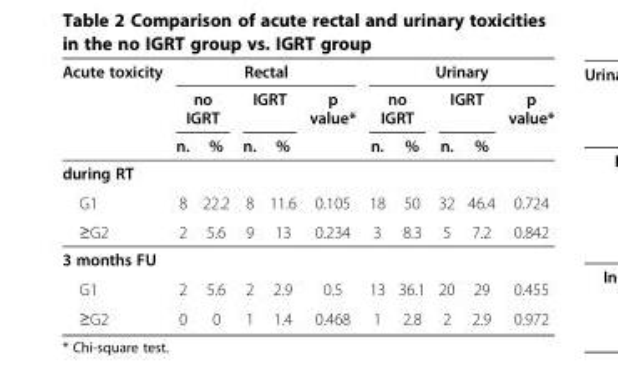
<table><thead><tr><td rowspan="3">Acute toxicity</td><td colspan="5">Rectal</td><td colspan="5">Urinary</td></tr><tr><td colspan="2">no IGRT</td><td colspan="2">IGRT</td><td rowspan="2">p value*</td><td colspan="2">no IGRT</td><td colspan="2">IGRT</td><td rowspan="2">p value*</td></tr><tr><td>n.</td><td>%</td><td>n.</td><td>%</td><td>n.</td><td>%</td><td>n.</td><td>%</td></tr></thead><tbody><tr><td colspan="11">during RT</td></tr><tr><td>G1</td><td>8</td><td>22.2</td><td>8</td><td>11.6</td><td>0.105</td><td>18</td><td>50</td><td>32</td><td>46.4</td><td>0.724</td></tr><tr><td>≥G2</td><td>2</td><td>5.6</td><td>9</td><td>13</td><td>0.234</td><td>3</td><td>8.3</td><td>5</td><td>7.2</td><td>0.842</td></tr><tr><td colspan="11">3 months FU</td></tr><tr><td>G1</td><td>2</td><td>5.6</td><td>2</td><td>2.9</td><td>0.5</td><td>13</td><td>36.1</td><td>20</td><td>29</td><td>0.455</td></tr><tr><td>≥G2</td><td>0</td><td>0</td><td>1</td><td>1.4</td><td>0.468</td><td>1</td><td>2.8</td><td>2</td><td>2.9</td><td>0.972</td></tr></tbody></table>